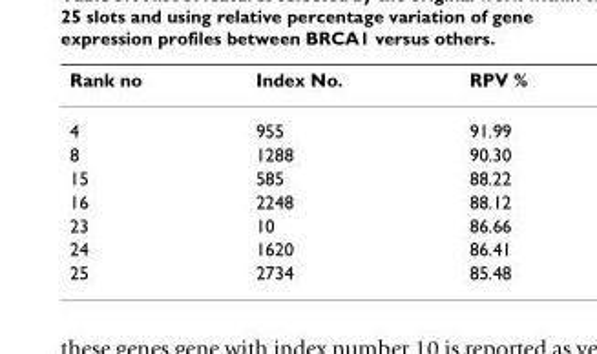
<table><thead><tr><td>Rank no</td><td>Index No.</td><td>RPV %</td></tr></thead><tbody><tr><td>4</td><td>955</td><td>91.99</td></tr><tr><td>8</td><td>1288</td><td>90.30</td></tr><tr><td>15</td><td>585</td><td>88.22</td></tr><tr><td>16</td><td>2248</td><td>88.12</td></tr><tr><td>23</td><td>10</td><td>86.66</td></tr><tr><td>24</td><td>1620</td><td>86.41</td></tr><tr><td>25</td><td>2734</td><td>85.48</td></tr></tbody></table>